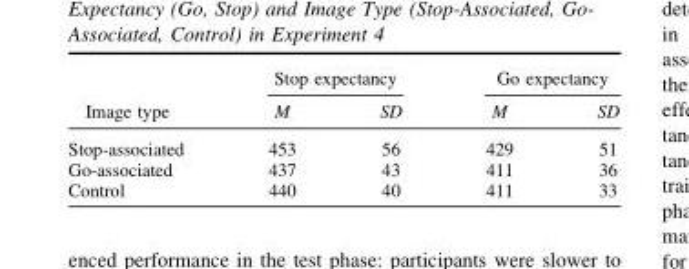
<table><thead><tr><td rowspan="2">Image type</td><td colspan="2">Stop expectancy</td><td colspan="2">Go expectancy</td></tr><tr><td>M</td><td>SD</td><td>M</td><td>SD</td></tr></thead><tbody><tr><td>Stop-associated</td><td>453</td><td>56</td><td>429</td><td>51</td></tr><tr><td>Go-associated</td><td>437</td><td>43</td><td>411</td><td>36</td></tr><tr><td>Control</td><td>440</td><td>40</td><td>411</td><td>33</td></tr></tbody></table>